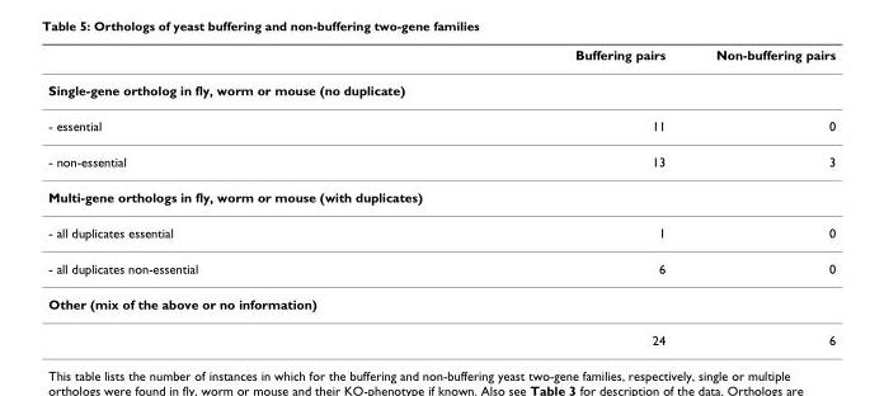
<table><thead><tr><td></td><td>Buffering pairs</td><td>Non-buffering pairs</td></tr></thead><tbody><tr><td colspan="3">Single-gene ortholog in fly, worm or mouse (no duplicate)</td></tr><tr><td>- essential</td><td>11</td><td>0</td></tr><tr><td>- non-essential</td><td>13</td><td>3</td></tr><tr><td colspan="3">Multi-gene orthologs in fly, worm or mouse (with duplicates)</td></tr><tr><td>- all duplicates essential</td><td>1</td><td>0</td></tr><tr><td>- all duplicates non-essential</td><td>6</td><td>0</td></tr><tr><td colspan="3">Other (mix of the above or no information)</td></tr><tr><td></td><td>24</td><td>6</td></tr></tbody></table>